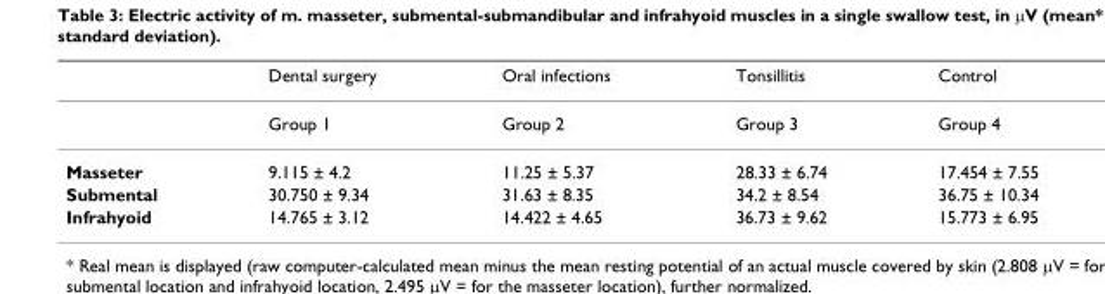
<table><thead><tr><td></td><td>Dental surgery</td><td>Oral infections</td><td>Tonsillitis</td><td>Control</td></tr></thead><tbody><tr><td></td><td>Group 1</td><td>Group 2</td><td>Group 3</td><td>Group 4</td></tr><tr><td>Masseter</td><td>9.115 ± 4.2</td><td>11.25 ± 5.37</td><td>28.33 ± 6.74</td><td>17.454 ± 7.55</td></tr><tr><td>Submental</td><td>30.750 ± 9.34</td><td>31.63 ± 8.35</td><td>34.2 ± 8.54</td><td>36.75 ± 10.34</td></tr><tr><td>Infrahyoid</td><td>14.765 ± 3.12</td><td>14.422 ± 4.65</td><td>36.73 ± 9.62</td><td>15.773 ± 6.95</td></tr></tbody></table>